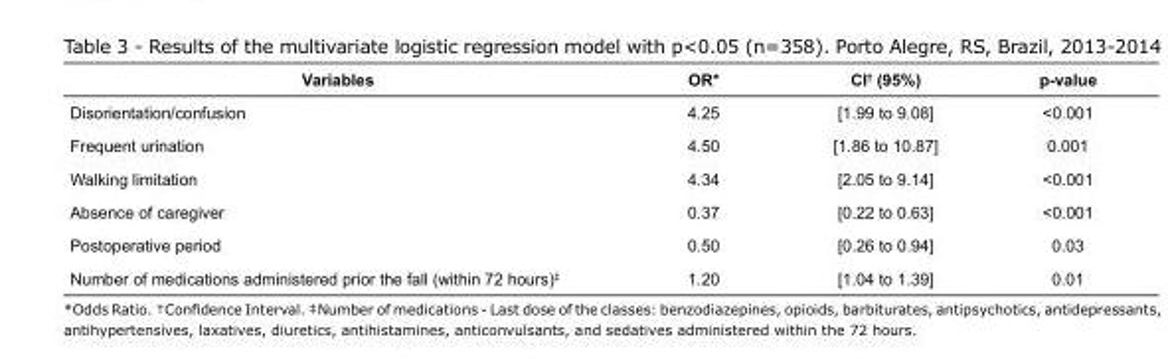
<table><tbody><tr><td>Variables</td><td>OR*</td><td>CI<sup>†</sup> (95%)</td><td>p-value</td></tr><tr><td>Disorientation/confusion</td><td>4.25</td><td>[1.99 to 9.08]</td><td>&lt;0.001</td></tr><tr><td>Frequent urination</td><td>4.50</td><td>[1.86 to 10.87]</td><td>0.001</td></tr><tr><td>Walking limitation</td><td>4.34</td><td>[2.05 to 9.14]</td><td>&lt;0.001</td></tr><tr><td>Absence of caregiver</td><td>0.37</td><td>[0.22 to 0.63]</td><td>&lt;0.001</td></tr><tr><td>Postoperative period</td><td>0.50</td><td>[0.26 to 0.94]</td><td>0.03</td></tr><tr><td>Number of medications administered prior the fall (within 72 hours)<sup>‡</sup></td><td>1.20</td><td>[1.04 to 1.39]</td><td>0.01</td></tr></tbody></table>